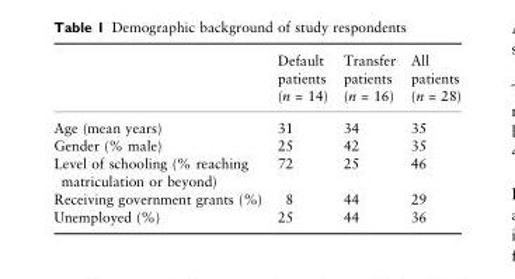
<table><thead><tr><td></td><td>Default patients (n = 14)</td><td>Transfer patients (n = 16)</td><td>All patients (n = 28)</td></tr></thead><tbody><tr><td>Age (mean years)</td><td>31</td><td>34</td><td>35</td></tr><tr><td>Gender (% male)</td><td>25</td><td>42</td><td>35</td></tr><tr><td>Level of schooling (% reaching matriculation or beyond)</td><td>72</td><td>25</td><td>46</td></tr><tr><td>Receiving government grants (%)</td><td>8</td><td>44</td><td>29</td></tr><tr><td>Unemployed (%)</td><td>25</td><td>44</td><td>36</td></tr></tbody></table>